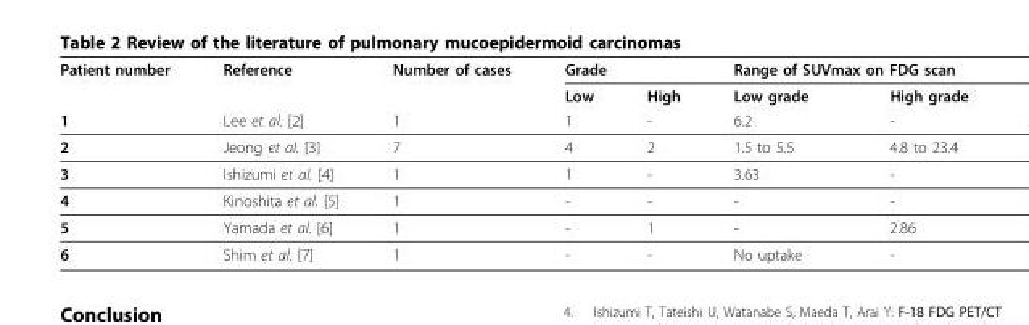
<table><thead><tr><td rowspan="3">Patient number 1</td><td rowspan="3">Reference Lee et al. [2]</td><td rowspan="3">Number of cases 1</td><td colspan="2">Grade</td><td colspan="2">Range of SUVmax on FDG scan</td></tr><tr><td rowspan="2">Low 1</td><td rowspan="2">High -</td><td rowspan="2">Low grade 6.2</td><td rowspan="2">High grade -</td></tr><tr></tr></thead><tbody><tr><td>2</td><td>Jeong et al. [3]</td><td>7</td><td>4</td><td>2</td><td>1.5 to 5.5</td><td>4.8 to 23.4</td></tr><tr><td>3</td><td>Ishizumi et al. [4]</td><td>1</td><td>1</td><td>-</td><td>3.63</td><td>-</td></tr><tr><td>4</td><td>Kinoshita et al. [5]</td><td>1</td><td>-</td><td>-</td><td>-</td><td>-</td></tr><tr><td>5</td><td>Yamada et al. [6]</td><td>1</td><td>-</td><td>1</td><td>-</td><td>2.86</td></tr><tr><td>6</td><td>Shim et al. [7]</td><td>1</td><td>-</td><td>-</td><td>No uptake</td><td>-</td></tr></tbody></table>